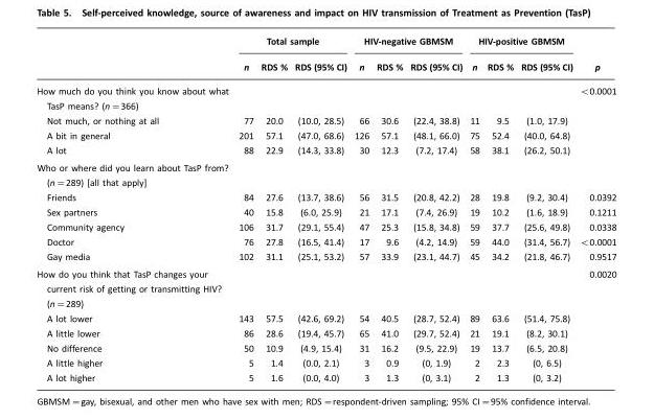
<table><thead><tr><td rowspan="2"></td><td colspan="3">Total sample</td><td colspan="3">HIV-negative GBMSM</td><td colspan="3">HIV-positive GBMSM</td><td rowspan="2">p</td></tr><tr><td>n</td><td>RDS %</td><td>RDS (95% CI)</td><td>n</td><td>RDS %</td><td>RDS (95% CI)</td><td>n</td><td>RDS %</td><td>RDS (95% CI)</td></tr></thead><tbody><tr><td>How much do you think you know about what TasP means? (n=366)</td><td></td><td></td><td></td><td></td><td></td><td></td><td></td><td></td><td></td><td>&lt;0.0001</td></tr><tr><td>Not much, or nothing at all</td><td>77</td><td>20.0</td><td>(10.0, 28.5)</td><td>66</td><td>30.6</td><td>(22.4, 38.8)</td><td>11</td><td>9.5</td><td>(1.0, 17.9)</td><td></td></tr><tr><td>A bit in general</td><td>201</td><td>57.1</td><td>(47.0, 68.6)</td><td>126</td><td>57.1</td><td>(48.1, 66.0)</td><td>75</td><td>52.4</td><td>(40.0, 64.8)</td><td></td></tr><tr><td>A lot</td><td>88</td><td>22.9</td><td>(14.3, 33.8)</td><td>30</td><td>12.3</td><td>(7.2, 17.4)</td><td>58</td><td>38.1</td><td>(26.2, 50.1)</td><td></td></tr><tr><td colspan="11">Who or where did you learn about TasP from? (n=289) [all that apply]</td></tr><tr><td>Friends</td><td>84</td><td>27.6</td><td>(13.7, 38.6)</td><td>56</td><td>31.5</td><td>(20.8, 42.2)</td><td>28</td><td>19.8</td><td>(9.2, 30.4)</td><td>0.0392</td></tr><tr><td>Sex partners</td><td>40</td><td>15.8</td><td>(6.0, 25.9)</td><td>21</td><td>17.1</td><td>(7.4, 26.9)</td><td>19</td><td>10.2</td><td>(1.6, 18.9)</td><td>0.1211</td></tr><tr><td>Community agency</td><td>106</td><td>31.7</td><td>(29.1, 55.4)</td><td>47</td><td>25.3</td><td>(15.8, 34.8)</td><td>59</td><td>37.7</td><td>(25.6, 49.8)</td><td>0.0338</td></tr><tr><td>Doctor</td><td>76</td><td>27.8</td><td>(16.5, 41.4)</td><td>17</td><td>9.6</td><td>(4.2, 14.9)</td><td>59</td><td>44.0</td><td>(31.4, 56.7)</td><td>&lt;0.0001</td></tr><tr><td>Gay media</td><td>102</td><td>31.1</td><td>(25.1, 53.2)</td><td>57</td><td>33.9</td><td>(23.1, 44.7)</td><td>45</td><td>34.2</td><td>(21.8, 46.7)</td><td>0.9517</td></tr><tr><td>How do you think that TasP changes your current risk of getting or transmitting HIV? (n=289)</td><td></td><td></td><td></td><td></td><td></td><td></td><td></td><td></td><td></td><td>0.0020</td></tr><tr><td>A lot lower</td><td>143</td><td>57.5</td><td>(42.6, 69.2)</td><td>54</td><td>40.5</td><td>(28.7, 52.4)</td><td>89</td><td>63.6</td><td>(51.4, 75.8)</td><td></td></tr><tr><td>A little lower</td><td>86</td><td>28.6</td><td>(19.4, 45.7)</td><td>65</td><td>41.0</td><td>(29.7, 52.4)</td><td>21</td><td>19.1</td><td>(8.2, 30.1)</td><td></td></tr><tr><td>No difference</td><td>50</td><td>10.9</td><td>(4.9, 15.4)</td><td>31</td><td>16.2</td><td>(9.5, 22.9)</td><td>19</td><td>13.7</td><td>(6.5, 20.8)</td><td></td></tr><tr><td>A little higher</td><td>5</td><td>1.4</td><td>(0.0, 2.1)</td><td>3</td><td>0.9</td><td>(0, 1.9)</td><td>2</td><td>2.3</td><td>(0, 6.5)</td><td></td></tr><tr><td>A lot higher</td><td>5</td><td>1.6</td><td>(0.0, 4.0)</td><td>3</td><td>1.3</td><td>(0, 3.1)</td><td>2</td><td>1.3</td><td>(0, 3.2)</td><td></td></tr></tbody></table>